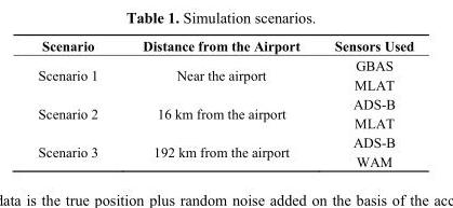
<table><thead><tr><td>Scenario</td><td>Distance from the Airport</td><td>Sensors Used</td></tr></thead><tbody><tr><td rowspan="2">Scenario 1</td><td rowspan="2">Near the airport</td><td>GBAS</td></tr><tr><td>MLAT</td></tr><tr><td rowspan="2">Scenario 2</td><td rowspan="2">16 km from the airport</td><td>ADS-B</td></tr><tr><td>MLAT</td></tr><tr><td rowspan="2">Scenario 3</td><td rowspan="2">192 km from the airport</td><td>ADS-B</td></tr><tr><td>WAM</td></tr></tbody></table>